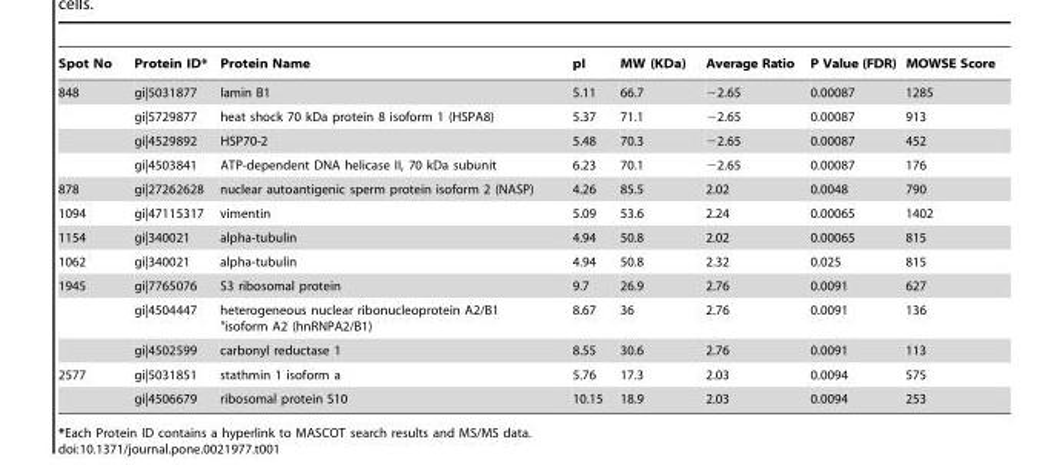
<table><thead><tr><td>Spot No</td><td>Protein ID*</td><td>Protein Name</td><td>pI</td><td>MW (KDa)</td><td>Average Ratio</td><td>P Value (FDR)</td><td>MOWSE Score</td></tr></thead><tbody><tr><td rowspan="4">848</td><td>gi|5031877</td><td>lamin B1</td><td>5.11</td><td>66.7</td><td>−2.65</td><td>0.00087</td><td>1285</td></tr><tr><td>gi|5729877</td><td>heat shock 70 kDa protein 8 isoform 1 (HSPA8)</td><td>5.37</td><td>71.1</td><td>−2.65</td><td>0.00087</td><td>913</td></tr><tr><td>gi|4529892</td><td>HSP70-2</td><td>5.48</td><td>70.3</td><td>−2.65</td><td>0.00087</td><td>452</td></tr><tr><td>gi|4503841</td><td>ATP-dependent DNA helicase II, 70 kDa subunit</td><td>6.23</td><td>70.1</td><td>−2.65</td><td>0.00087</td><td>176</td></tr><tr><td>878</td><td>gi|27262628</td><td>nuclear autoantigenic sperm protein isoform 2 (NASP)</td><td>4.26</td><td>85.5</td><td>2.02</td><td>0.0048</td><td>790</td></tr><tr><td>1094</td><td>gi|47115317</td><td>vimentin</td><td>5.09</td><td>53.6</td><td>2.24</td><td>0.00065</td><td>1402</td></tr><tr><td>1154</td><td>gi|340021</td><td>alpha-tubulin</td><td>4.94</td><td>50.8</td><td>2.02</td><td>0.00065</td><td>815</td></tr><tr><td>1062</td><td>gi|340021</td><td>alpha-tubulin</td><td>4.94</td><td>50.8</td><td>2.32</td><td>0.025</td><td>815</td></tr><tr><td rowspan="3">1945</td><td>gi|7765076</td><td>S3 ribosomal protein</td><td>9.7</td><td>26.9</td><td>2.76</td><td>0.0091</td><td>627</td></tr><tr><td>gi|4504447</td><td>heterogeneous nuclear ribonucleoprotein A2/B1 &quot;isoform A2 (hnRNPA2/B1)</td><td>8.67</td><td>36</td><td>2.76</td><td>0.0091</td><td>136</td></tr><tr><td>gi|4502599</td><td>carbonyl reductase 1</td><td>8.55</td><td>30.6</td><td>2.76</td><td>0.0091</td><td>113</td></tr><tr><td rowspan="2">2577</td><td>gi|5031851</td><td>stathmin 1 isoform a</td><td>5.76</td><td>17.3</td><td>2.03</td><td>0.0094</td><td>575</td></tr><tr><td>gi|4506679</td><td>ribosomal protein S10</td><td>10.15</td><td>18.9</td><td>2.03</td><td>0.0094</td><td>253</td></tr></tbody></table>